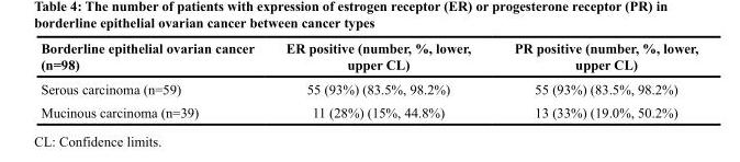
<table><thead><tr><td>Borderline epithelial ovarian cancer (n=98)</td><td>ER positive (number, %, lower, upper CL)</td><td>PR positive (number, %, lower, upper CL)</td></tr></thead><tbody><tr><td>Serous carcinoma (n=59)</td><td>55 (93%) (83.5%, 98.2%)</td><td>55 (93%) (83.5%, 98.2%)</td></tr><tr><td>Mucinous carcinoma (n=39)</td><td>11 (28%) (15%, 44.8%)</td><td>13 (33%) (19.0%, 50.2%)</td></tr></tbody></table>